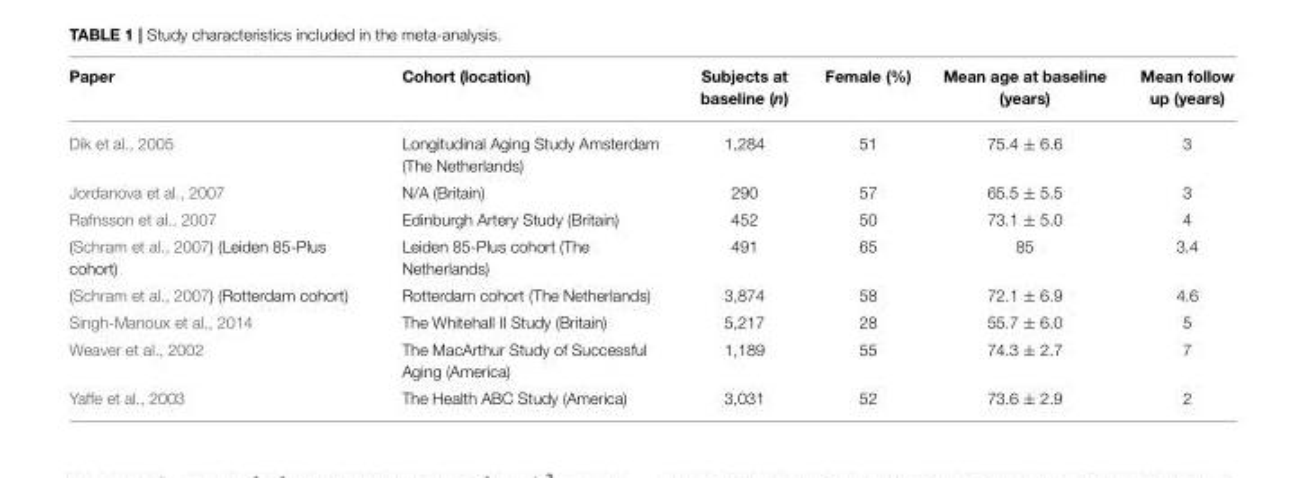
<table><thead><tr><td>Paper</td><td>Cohort (location)</td><td>Subjects at baseline (n)</td><td>Female (%)</td><td>Mean age at baseline (years)</td><td>Mean follow up (years)</td></tr></thead><tbody><tr><td>Dik et al., 2005</td><td>Longitudinal Aging Study Amsterdam (The Netherlands)</td><td>1,284</td><td>51</td><td>75.4 ± 6.6</td><td>3</td></tr><tr><td>Jordanova et al., 2007</td><td>N/A (Britain)</td><td>290</td><td>57</td><td>65.5 ± 5.5</td><td>3</td></tr><tr><td>Rafnsson et al., 2007</td><td>Edinburgh Artery Study (Britain)</td><td>452</td><td>50</td><td>73.1 ± 5.0</td><td>4</td></tr><tr><td>(Schram et al., 2007) (Leiden 85-Plus cohort)</td><td>Leiden 85-Plus cohort (The Netherlands)</td><td>491</td><td>65</td><td>85</td><td>3.4</td></tr><tr><td>(Schram et al., 2007) (Rotterdam cohort)</td><td>Rotterdam cohort (The Netherlands)</td><td>3,874</td><td>58</td><td>72.1 ± 6.9</td><td>4.6</td></tr><tr><td>Singh-Manoux et al., 2014</td><td>The Whitehall II Study (Britain)</td><td>5,217</td><td>28</td><td>55.7 ± 6.0</td><td>5</td></tr><tr><td>Weaver et al., 2002</td><td>The MacArthur Study of Successful Aging (America)</td><td>1,189</td><td>55</td><td>74.3 ± 2.7</td><td>7</td></tr><tr><td>Yaffe et al., 2003</td><td>The Health ABC Study (America)</td><td>3,031</td><td>52</td><td>73.6 ± 2.9</td><td>2</td></tr></tbody></table>